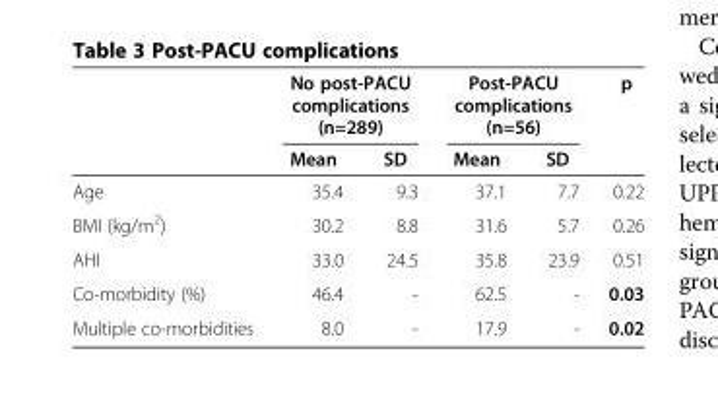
<table><thead><tr><td rowspan="2"></td><td colspan="2">No post-PACU complications (n=289)</td><td colspan="2">Post-PACU complications (n=56)</td><td rowspan="2">p</td></tr><tr><td>Mean</td><td>SD</td><td>Mean</td><td>SD</td></tr></thead><tbody><tr><td>Age</td><td>35.4</td><td>9.3</td><td>37.1</td><td>7.7</td><td>0.22</td></tr><tr><td>BMI (kg/m<sup>2</sup>)</td><td>30.2</td><td>8.8</td><td>31.6</td><td>5.7</td><td>0.26</td></tr><tr><td>AHI</td><td>33.0</td><td>24.5</td><td>35.8</td><td>23.9</td><td>0.51</td></tr><tr><td>Co-morbidity (%)</td><td>46.4</td><td>-</td><td>62.5</td><td>-</td><td>0.03</td></tr><tr><td>Multiple co-morbidities</td><td>8.0</td><td>-</td><td>17.9</td><td>-</td><td>0.02</td></tr></tbody></table>